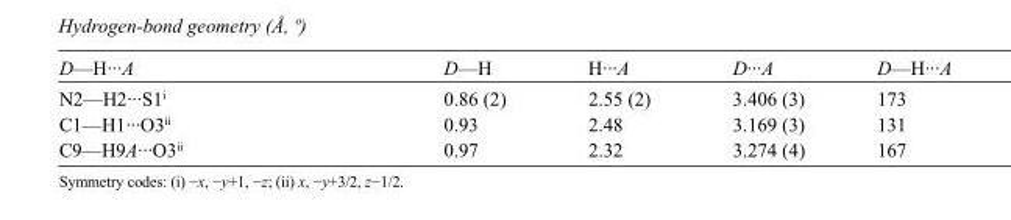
<table><tbody><tr><td>D—H···A</td><td>D—H</td><td>H···A</td><td>D···A</td><td>D—H···A</td></tr><tr><td>N2—H2···S1<sup>i</sup></td><td>0.86 (2)</td><td>2.55 (2)</td><td>3.406 (3)</td><td>173</td></tr><tr><td>C1—H1···O3<sup>ii</sup></td><td>0.93</td><td>2.48</td><td>3.169 (3)</td><td>131</td></tr><tr><td>C9—H9A···O3<sup>ii</sup></td><td>0.97</td><td>2.32</td><td>3.274 (4)</td><td>167</td></tr></tbody></table>